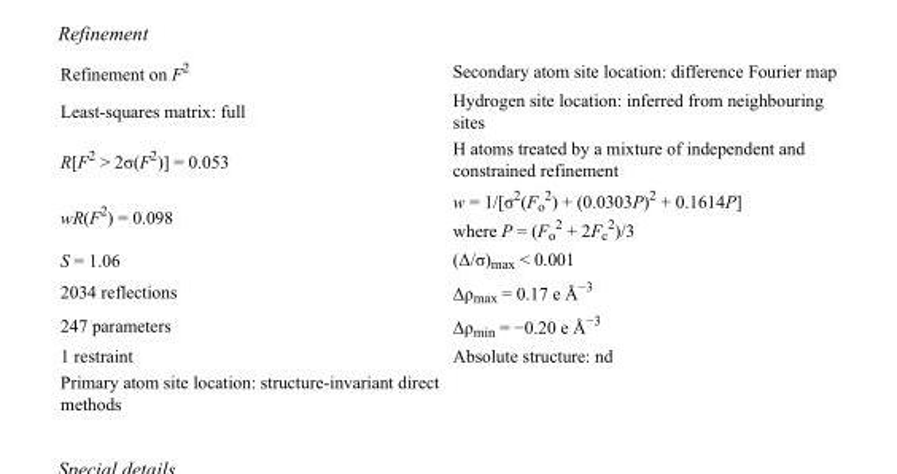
<table><tbody><tr><td>Refinement on F<sup>2</sup></td><td>Secondary atom site location: difference Fourier map</td></tr><tr><td>Least-squares matrix: full</td><td>Hydrogen site location: inferred from neighbouring sites</td></tr><tr><td>R[F<sup>2</sup> &gt; 2σ(F<sup>2</sup>)] = 0.053</td><td>H atoms treated by a mixture of independent and constrained refinement</td></tr><tr><td>wR(F<sup>2</sup>) = 0.098</td><td>w = 1/[σ<sup>2</sup>(F<sub>o</sub> <sup>2</sup>) + (0.0303P)<sup>2</sup> + 0.1614P] where P = (F<sub>o</sub> <sup>2</sup> + 2F<sub>c</sub> <sup>2</sup>)/3</td></tr><tr><td>S = 1.06</td><td>(Δ/σ)<sub>max</sub> &lt; 0.001</td></tr><tr><td>2034 reflections</td><td>Δρ<sub>max</sub> = 0.17 e Å<sup>−3</sup></td></tr><tr><td>247 parameters</td><td>Δρ<sub>min</sub> = −0.20 e Å<sup>−3</sup></td></tr><tr><td>1 restraint</td><td>Absolute structure: nd</td></tr><tr><td>Primary atom site location: structure-invariant direct methods</td><td></td></tr></tbody></table>